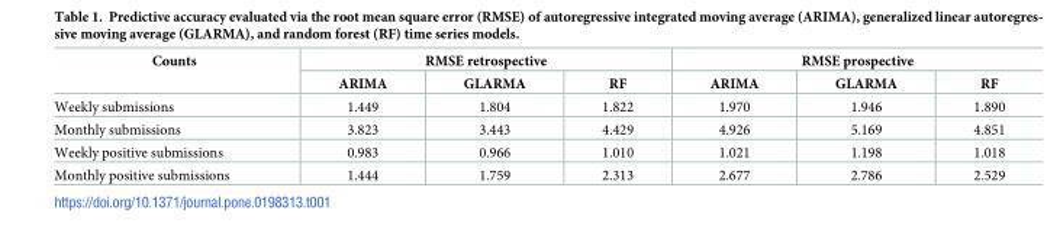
<table><thead><tr><td rowspan="2">Counts</td><td colspan="3">RMSE retrospective</td><td colspan="3">RMSE prospective</td></tr><tr><td>ARIMA</td><td>GLARMA</td><td>RF</td><td>ARIMA</td><td>GLARMA</td><td>RF</td></tr></thead><tbody><tr><td>Weekly submissions</td><td>1.449</td><td>1.804</td><td>1.822</td><td>1.970</td><td>1.946</td><td>1.890</td></tr><tr><td>Monthly submissions</td><td>3.823</td><td>3.443</td><td>4.429</td><td>4.926</td><td>5.169</td><td>4.851</td></tr><tr><td>Weekly positive submissions</td><td>0.983</td><td>0.966</td><td>1.010</td><td>1.021</td><td>1.198</td><td>1.018</td></tr><tr><td>Monthly positive submissions</td><td>1.444</td><td>1.759</td><td>2.313</td><td>2.677</td><td>2.786</td><td>2.529</td></tr></tbody></table>